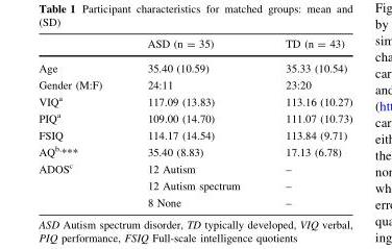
<table><thead><tr><td></td><td>ASD (n = 35)</td><td>TD (n = 43)</td></tr></thead><tbody><tr><td>Age</td><td>35.40 (10.59)</td><td>35.33 (10.54)</td></tr><tr><td>Gender (M:F)</td><td>24:11</td><td>23:20</td></tr><tr><td>VIQ<sup>a</sup></td><td>117.09 (13.83)</td><td>113.16 (10.27)</td></tr><tr><td>PIQ<sup>a</sup></td><td>109.00 (14.70)</td><td>111.07 (10.73)</td></tr><tr><td>FSIQ</td><td>114.17 (14.54)</td><td>113.84 (9.71)</td></tr><tr><td>AQ<sup>b,</sup>***</td><td>35.40 (8.83)</td><td>17.13 (6.78)</td></tr><tr><td rowspan="3">ADOS<sup>c</sup></td><td>12 Autism</td><td>–</td></tr><tr><td>12 Autism spectrum</td><td>–</td></tr><tr><td>8 None</td><td>–</td></tr></tbody></table>